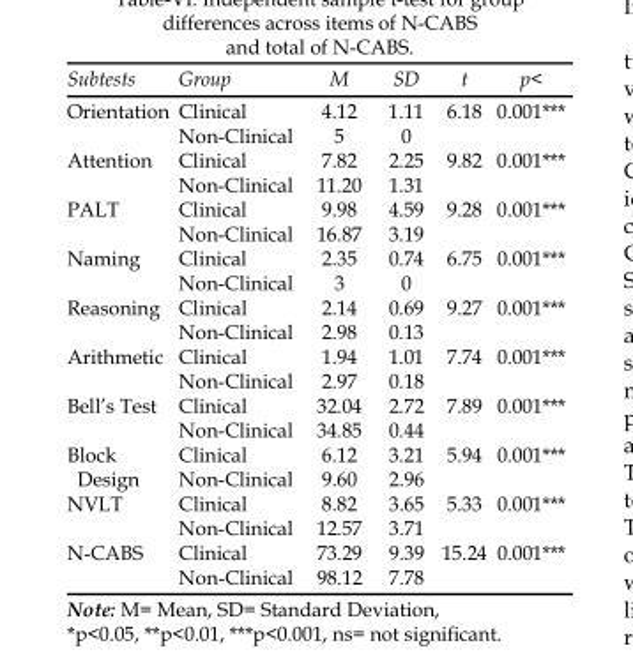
<table><thead><tr><td>Subtests</td><td>Group</td><td>M</td><td>SD</td><td>t</td><td>p&lt;</td></tr></thead><tbody><tr><td rowspan="2">Orientation</td><td>Clinical</td><td>4.12</td><td>1.11</td><td>6.18</td><td>0.001***</td></tr><tr><td>Non-Clinical</td><td>5</td><td>0</td><td></td><td></td></tr><tr><td rowspan="2">Attention</td><td>Clinical</td><td>7.82</td><td>2.25</td><td>9.82</td><td>0.001***</td></tr><tr><td>Non-Clinical</td><td>11.20</td><td>1.31</td><td></td><td></td></tr><tr><td rowspan="2">PALT</td><td>Clinical</td><td>9.98</td><td>4.59</td><td>9.28</td><td>0.001***</td></tr><tr><td>Non-Clinical</td><td>16.87</td><td>3.19</td><td></td><td></td></tr><tr><td rowspan="2">Naming</td><td>Clinical</td><td>2.35</td><td>0.74</td><td>6.75</td><td>0.001***</td></tr><tr><td>Non-Clinical</td><td>3</td><td>0</td><td></td><td></td></tr><tr><td rowspan="2">Reasoning</td><td>Clinical</td><td>2.14</td><td>0.69</td><td>9.27</td><td>0.001***</td></tr><tr><td>Non-Clinical</td><td>2.98</td><td>0.13</td><td></td><td></td></tr><tr><td rowspan="2">Arithmetic</td><td>Clinical</td><td>1.94</td><td>1.01</td><td>7.74</td><td>0.001***</td></tr><tr><td>Non-Clinical</td><td>2.97</td><td>0.18</td><td></td><td></td></tr><tr><td rowspan="2">Bell’s Test</td><td>Clinical</td><td>32.04</td><td>2.72</td><td>7.89</td><td>0.001***</td></tr><tr><td>Non-Clinical</td><td>34.85</td><td>0.44</td><td></td><td></td></tr><tr><td rowspan="2">Block Design</td><td>Clinical</td><td>6.12</td><td>3.21</td><td>5.94</td><td>0.001***</td></tr><tr><td>Non-Clinical</td><td>9.60</td><td>2.96</td><td></td><td></td></tr><tr><td rowspan="2">NVLT</td><td>Clinical</td><td>8.82</td><td>3.65</td><td>5.33</td><td>0.001***</td></tr><tr><td>Non-Clinical</td><td>12.57</td><td>3.71</td><td></td><td></td></tr><tr><td rowspan="2">N-CABS</td><td>Clinical</td><td>73.29</td><td>9.39</td><td>15.24</td><td>0.001***</td></tr><tr><td>Non-Clinical</td><td>98.12</td><td>7.78</td><td></td><td></td></tr></tbody></table>